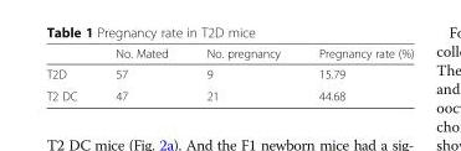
<table><thead><tr><td></td><td>No. Mated</td><td>No. pregnancy</td><td>Pregnancy rate (%)</td></tr></thead><tbody><tr><td>T2D</td><td>57</td><td>9</td><td>15.79</td></tr><tr><td>T2 DC</td><td>47</td><td>21</td><td>44.68</td></tr></tbody></table>